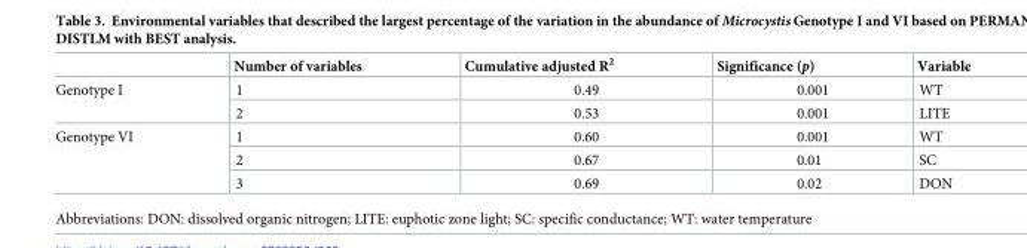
<table><thead><tr><td></td><td>Number of variables</td><td>Cumulative adjusted R<sup>2</sup></td><td>Significance (p)</td><td>Variable</td></tr></thead><tbody><tr><td rowspan="2">Genotype I</td><td>1</td><td>0.49</td><td>0.001</td><td>WT</td></tr><tr><td>2</td><td>0.53</td><td>0.001</td><td>LITE</td></tr><tr><td rowspan="3">Genotype VI</td><td>1</td><td>0.60</td><td>0.001</td><td>WT</td></tr><tr><td>2</td><td>0.67</td><td>0.01</td><td>SC</td></tr><tr><td>3</td><td>0.69</td><td>0.02</td><td>DON</td></tr></tbody></table>